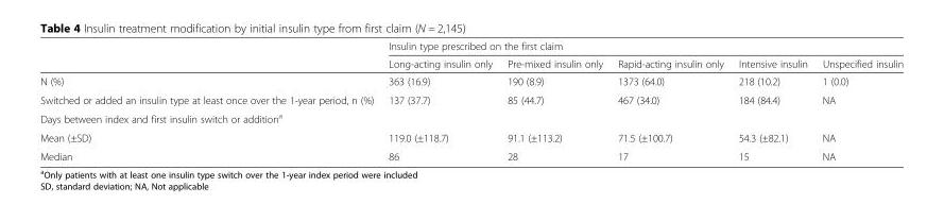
<table><thead><tr><td rowspan="2"></td><td colspan="5">Insulin type prescribed on the first claim</td></tr><tr><td>Long-acting insulin only</td><td>Pre-mixed insulin only</td><td>Rapid-acting insulin only</td><td>Intensive insulin</td><td>Unspecified insulin</td></tr></thead><tbody><tr><td>N (%)</td><td>363 (16.9)</td><td>190 (8.9)</td><td>1373 (64.0)</td><td>218 (10.2)</td><td>1 (0.0)</td></tr><tr><td>Switched or added an insulin type at least once over the 1-year period, n (%)</td><td>137 (37.7)</td><td>85 (44.7)</td><td>467 (34.0)</td><td>184 (84.4)</td><td>NA</td></tr><tr><td colspan="6">Days between index and first insulin switch or addition<sup>a</sup></td></tr><tr><td>Mean (±SD)</td><td>119.0 (±118.7)</td><td>91.1 (±113.2)</td><td>71.5 (±100.7)</td><td>54.3 (±82.1)</td><td>NA</td></tr><tr><td>Median</td><td>86</td><td>28</td><td>17</td><td>15</td><td>NA</td></tr></tbody></table>